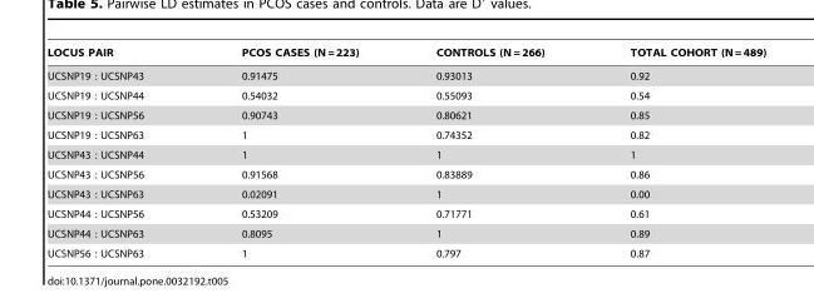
<table><thead><tr><td>LOCUS PAIR</td><td>PCOS CASES (N = 223)</td><td>CONTROLS (N = 266)</td><td>TOTAL COHORT (N = 489)</td></tr></thead><tbody><tr><td>UCSNP19 : UCSNP43</td><td>0.91475</td><td>0.93013</td><td>0.92</td></tr><tr><td>UCSNP19 : UCSNP44</td><td>0.54032</td><td>0.55093</td><td>0.54</td></tr><tr><td>UCSNP19 : UCSNP56</td><td>0.90743</td><td>0.80621</td><td>0.85</td></tr><tr><td>UCSNP19 : UCSNP63</td><td>1</td><td>0.74352</td><td>0.82</td></tr><tr><td>UCSNP43 : UCSNP44</td><td>1</td><td>1</td><td>1</td></tr><tr><td>UCSNP43 : UCSNP56</td><td>0.91568</td><td>0.83889</td><td>0.86</td></tr><tr><td>UCSNP43 : UCSNP63</td><td>0.02091</td><td>1</td><td>0.00</td></tr><tr><td>UCSNP44 : UCSNP56</td><td>0.53209</td><td>0.71771</td><td>0.61</td></tr><tr><td>UCSNP44 : UCSNP63</td><td>0.8095</td><td>1</td><td>0.89</td></tr><tr><td>UCSNP56 : UCSNP63</td><td>1</td><td>0.797</td><td>0.87</td></tr></tbody></table>